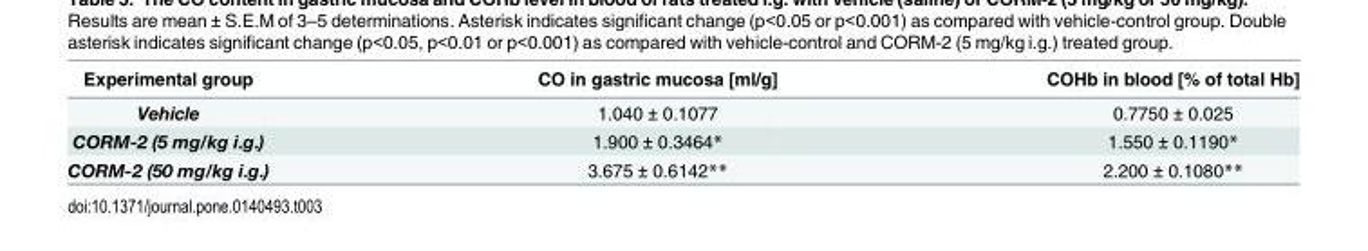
<table><thead><tr><td>Experimental group</td><td>CO in gastric mucosa [ml/g]</td><td>COHb in blood [% of total Hb]</td></tr></thead><tbody><tr><td>Vehicle</td><td>1.040 ± 0.1077</td><td>0.7750 ± 0.025</td></tr><tr><td>CORM-2 (5 mg/kg i.g.)</td><td>1.900 ± 0.3464*</td><td>1.550 ± 0.1190*</td></tr><tr><td>CORM-2 (50 mg/kg i.g.)</td><td>3.675 ± 0.6142**</td><td>2.200 ± 0.1080**</td></tr></tbody></table>